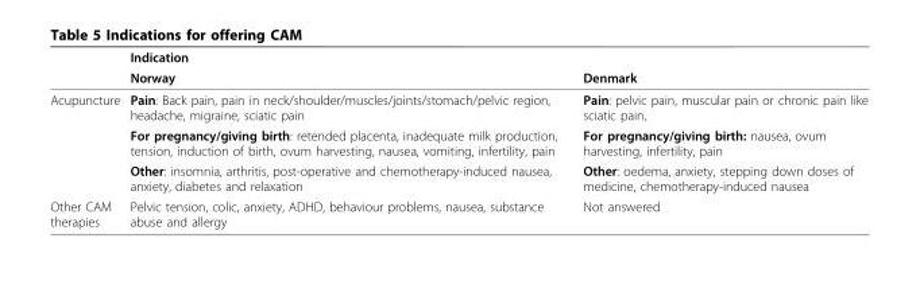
<table><thead><tr><td rowspan="2"></td><td rowspan="2">Indication Norway</td><td rowspan="2">Denmark</td></tr><tr></tr></thead><tbody><tr><td rowspan="3">Acupuncture</td><td>Pain: Back pain, pain in neck/shoulder/muscles/joints/stomach/pelvic region, headache, migraine, sciatic pain</td><td>Pain: pelvic pain, muscular pain or chronic pain like sciatic pain,</td></tr><tr><td>For pregnancy/giving birth: retended placenta, inadequate milk production, tension, induction of birth, ovum harvesting, nausea, vomiting, infertility, pain</td><td>For pregnancy/giving birth: nausea, ovum harvesting, infertility, pain</td></tr><tr><td>Other: insomnia, arthritis, post-operative and chemotherapy-induced nausea, anxiety, diabetes and relaxation</td><td>Other: oedema, anxiety, stepping down doses of medicine, chemotherapy-induced nausea</td></tr><tr><td>Other CAM therapies</td><td>Pelvic tension, colic, anxiety, ADHD, behaviour problems, nausea, substance abuse and allergy</td><td>Not answered</td></tr></tbody></table>